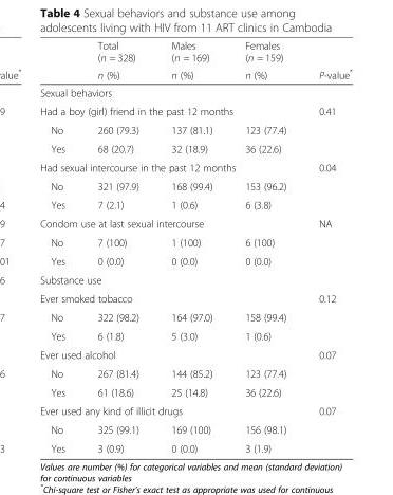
<table><thead><tr><td rowspan="2"></td><td rowspan="2">Total (n = 328) n (%)</td><td rowspan="2">Males (n = 169) n (%)</td><td rowspan="2">Females (n = 159) n (%)</td><td rowspan="2">P-value*</td></tr><tr></tr></thead><tbody><tr><td colspan="5">Sexual behaviors</td></tr><tr><td colspan="4">Had a boy (girl) friend in the past 12 months</td><td>0.41</td></tr><tr><td>No</td><td>260 (79.3)</td><td>137 (81.1)</td><td>123 (77.4)</td><td></td></tr><tr><td>Yes</td><td>68 (20.7)</td><td>32 (18.9)</td><td>36 (22.6)</td><td></td></tr><tr><td colspan="4">Had sexual intercourse in the past 12 months</td><td>0.04</td></tr><tr><td>No</td><td>321 (97.9)</td><td>168 (99.4)</td><td>153 (96.2)</td><td></td></tr><tr><td>Yes</td><td>7 (2.1)</td><td>1 (0.6)</td><td>6 (3.8)</td><td></td></tr><tr><td colspan="4">Condom use at last sexual intercourse</td><td>NA</td></tr><tr><td>No</td><td>7 (100)</td><td>1 (100)</td><td>6 (100)</td><td></td></tr><tr><td>Yes</td><td>0 (0.0)</td><td>0 (0.0)</td><td>0 (0.0)</td><td></td></tr><tr><td colspan="5">Substance use</td></tr><tr><td colspan="4">Ever smoked tobacco</td><td>0.12</td></tr><tr><td>No</td><td>322 (98.2)</td><td>164 (97.0)</td><td>158 (99.4)</td><td></td></tr><tr><td>Yes</td><td>6 (1.8)</td><td>5 (3.0)</td><td>1 (0.6)</td><td></td></tr><tr><td colspan="4">Ever used alcohol</td><td>0.07</td></tr><tr><td>No</td><td>267 (81.4)</td><td>144 (85.2)</td><td>123 (77.4)</td><td></td></tr><tr><td>Yes</td><td>61 (18.6)</td><td>25 (14.8)</td><td>36 (22.6)</td><td></td></tr><tr><td colspan="4">Ever used any kind of illicit drugs</td><td>0.07</td></tr><tr><td>No</td><td>325 (99.1)</td><td>169 (100)</td><td>156 (98.1)</td><td></td></tr><tr><td>Yes</td><td>3 (0.9)</td><td>0 (0.0)</td><td>3 (1.9)</td><td></td></tr></tbody></table>